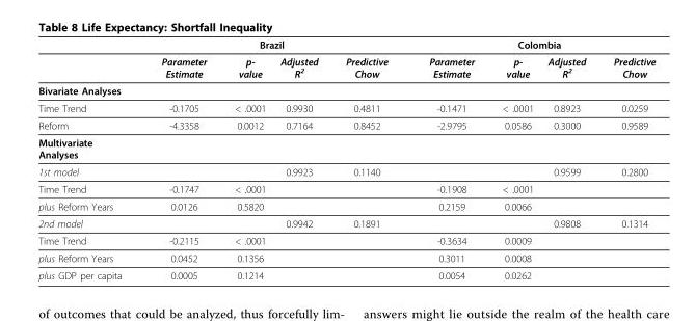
<table><thead><tr><td rowspan="2"></td><td colspan="4">Brazil</td><td colspan="4">Colombia</td></tr><tr><td>Parameter Estimate</td><td>p- value</td><td>Adjusted R2</td><td>Predictive Chow</td><td>Parameter Estimate</td><td>p- value</td><td>Adjusted R2</td><td>Predictive Chow</td></tr></thead><tbody><tr><td colspan="9">Bivariate Analyses</td></tr><tr><td>Time Trend</td><td>-0.1705</td><td>&lt; .0001</td><td>0.9930</td><td>0.4811</td><td>-0.1471</td><td>&lt; .0001</td><td>0.8923</td><td>0.0259</td></tr><tr><td>Reform</td><td>-4.3358</td><td>0.0012</td><td>0.7164</td><td>0.8452</td><td>-2.9795</td><td>0.0586</td><td>0.3000</td><td>0.9589</td></tr><tr><td colspan="9">Multivariate Analyses</td></tr><tr><td>1st model</td><td></td><td></td><td>0.9923</td><td>0.1140</td><td></td><td></td><td>0.9599</td><td>0.2800</td></tr><tr><td>Time Trend</td><td>-0.1747</td><td>&lt; .0001</td><td></td><td></td><td>-0.1908</td><td>&lt; .0001</td><td></td><td></td></tr><tr><td>plus Reform Years</td><td>0.0126</td><td>0.5820</td><td></td><td></td><td>0.2159</td><td>0.0066</td><td></td><td></td></tr><tr><td>2nd model</td><td></td><td></td><td>0.9942</td><td>0.1891</td><td></td><td></td><td>0.9808</td><td>0.1314</td></tr><tr><td>Time Trend</td><td>-0.2115</td><td>&lt; .0001</td><td></td><td></td><td>-0.3634</td><td>0.0009</td><td></td><td></td></tr><tr><td>plus Reform Years</td><td>0.0452</td><td>0.1356</td><td></td><td></td><td>0.3011</td><td>0.0008</td><td></td><td></td></tr><tr><td>plus GDP per capita</td><td>0.0005</td><td>0.1214</td><td></td><td></td><td>0.0054</td><td>0.0262</td><td></td><td></td></tr></tbody></table>